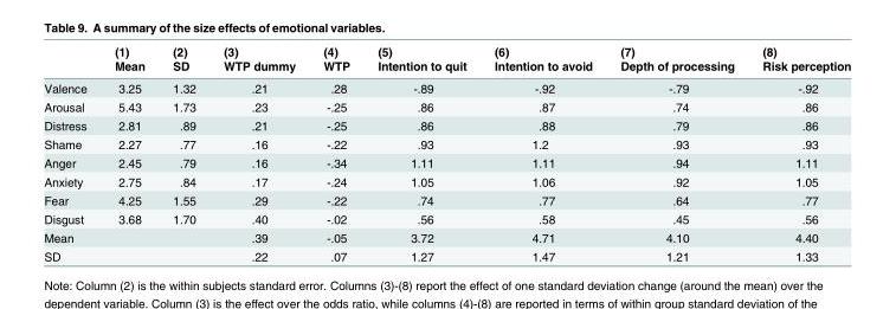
<table><thead><tr><td rowspan="2"></td><td rowspan="2">(1) Mean</td><td rowspan="2">(2) SD</td><td rowspan="2">(3) WTP dummy</td><td rowspan="2">(4) WTP</td><td rowspan="2">(5) Intention to quit</td><td rowspan="2">(6) Intention to avoid</td><td rowspan="2">(7) Depth of processing</td><td rowspan="2">(8) Risk perception</td></tr><tr></tr></thead><tbody><tr><td>Valence</td><td>3.25</td><td>1.32</td><td>.21</td><td>.28</td><td>-.89</td><td>-.92</td><td>-.79</td><td>-.92</td></tr><tr><td>Arousal</td><td>5.43</td><td>1.73</td><td>.23</td><td>-.25</td><td>.86</td><td>.87</td><td>.74</td><td>.86</td></tr><tr><td>Distress</td><td>2.81</td><td>.89</td><td>.21</td><td>-.25</td><td>.86</td><td>.88</td><td>.79</td><td>.86</td></tr><tr><td>Shame</td><td>2.27</td><td>.77</td><td>.16</td><td>-.22</td><td>.93</td><td>1.2</td><td>.93</td><td>.93</td></tr><tr><td>Anger</td><td>2.45</td><td>.79</td><td>.16</td><td>-.34</td><td>1.11</td><td>1.11</td><td>.94</td><td>1.11</td></tr><tr><td>Anxiety</td><td>2.75</td><td>.84</td><td>.17</td><td>-.24</td><td>1.05</td><td>1.06</td><td>.92</td><td>1.05</td></tr><tr><td>Fear</td><td>4.25</td><td>1.55</td><td>.29</td><td>-.22</td><td>.74</td><td>.77</td><td>.64</td><td>.77</td></tr><tr><td>Disgust</td><td>3.68</td><td>1.70</td><td>.40</td><td>-.02</td><td>.56</td><td>.58</td><td>.45</td><td>.56</td></tr><tr><td>Mean</td><td></td><td></td><td>.39</td><td>-.05</td><td>3.72</td><td>4.71</td><td>4.10</td><td>4.40</td></tr><tr><td>SD</td><td></td><td></td><td>.22</td><td>.07</td><td>1.27</td><td>1.47</td><td>1.21</td><td>1.33</td></tr></tbody></table>